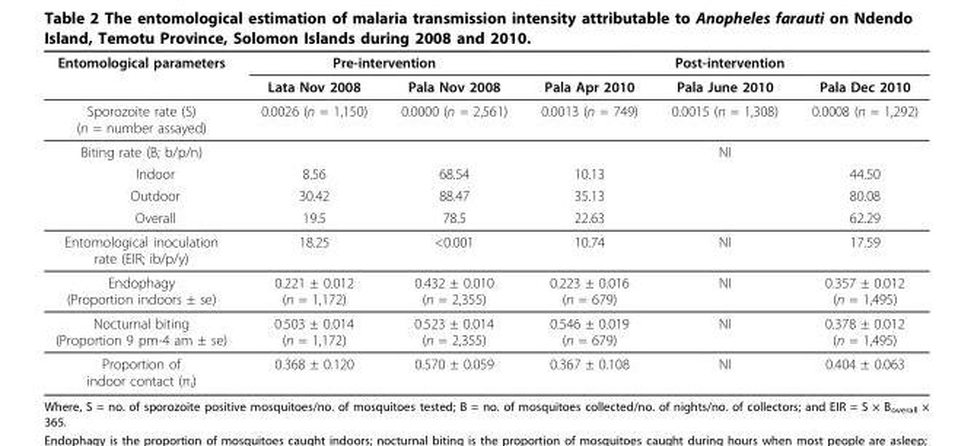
<table><thead><tr><td rowspan="2">Entomological parameters</td><td colspan="2">Pre-intervention</td><td colspan="3">Post-intervention</td></tr><tr><td>Lata Nov 2008</td><td>Pala Nov 2008</td><td>Pala Apr 2010</td><td>Pala June 2010</td><td>Pala Dec 2010</td></tr></thead><tbody><tr><td>Sporozoite rate (S) (n = number assayed)</td><td>0.0026 (n = 1,150)</td><td>0.0000 (n = 2,561)</td><td>0.0013 (n = 749)</td><td>0.0015 (n = 1,308)</td><td>0.0008 (n = 1,292)</td></tr><tr><td>Biting rate (B; b/p/n)</td><td></td><td></td><td></td><td>NI</td><td></td></tr><tr><td>Indoor</td><td>8.56</td><td>68.54</td><td>10.13</td><td></td><td>44.50</td></tr><tr><td>Outdoor</td><td>30.42</td><td>88.47</td><td>35.13</td><td></td><td>80.08</td></tr><tr><td>Overall</td><td>19.5</td><td>78.5</td><td>22.63</td><td></td><td>62.29</td></tr><tr><td>Entomological inoculation rate (EIR; ib/p/y)</td><td>18.25</td><td>&lt;0.001</td><td>10.74</td><td>NI</td><td>17.59</td></tr><tr><td>Endophagy (Proportion indoors ± se)</td><td>0.221 ± 0.012 (n = 1,172)</td><td>0.432 ± 0.010 (n = 2,355)</td><td>0.223 ± 0.016 (n = 679)</td><td>NI</td><td>0.357 ± 0.012 (n = 1,495)</td></tr><tr><td>Nocturnal biting (Proportion 9 pm-4 am ± se)</td><td>0.503 ± 0.014 (n = 1,172)</td><td>0.523 ± 0.014 (n = 2,355)</td><td>0.546 ± 0.019 (n = 679)</td><td>NI</td><td>0.378 ± 0.012 (n = 1,495)</td></tr><tr><td>Proportion of indoor contact (π<sub>i</sub>)</td><td>0.368 ± 0.120</td><td>0.570 ± 0.059</td><td>0.367 ± 0.108</td><td>NI</td><td>0.404 ± 0.063</td></tr></tbody></table>